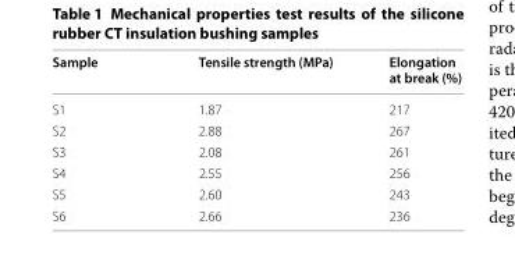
<table><thead><tr><td>Sample</td><td>Tensile strength (MPa)</td><td>Elongation at break (%)</td></tr></thead><tbody><tr><td>S1</td><td>1.87</td><td>217</td></tr><tr><td>S2</td><td>2.88</td><td>267</td></tr><tr><td>S3</td><td>2.08</td><td>261</td></tr><tr><td>S4</td><td>2.55</td><td>256</td></tr><tr><td>S5</td><td>2.60</td><td>243</td></tr><tr><td>S6</td><td>2.66</td><td>236</td></tr></tbody></table>